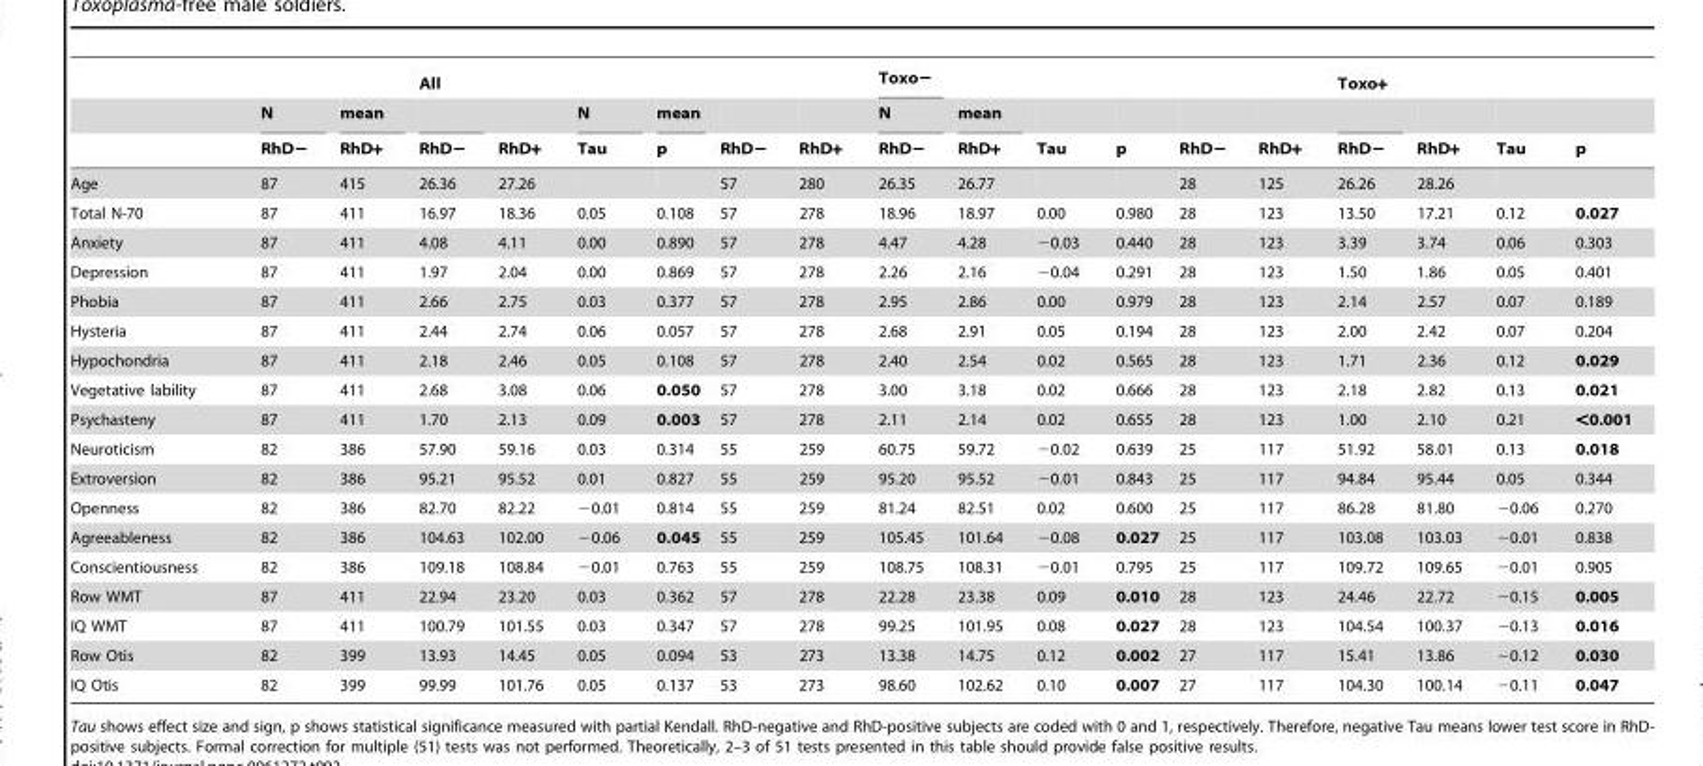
<table><thead><tr><td rowspan="3"></td><td rowspan="3">N RhD−</td><td rowspan="3">mean RhD+</td><td rowspan="3">All RhD−</td><td rowspan="3">RhD+</td><td rowspan="3">N Tau</td><td rowspan="3">mean p</td><td rowspan="3">RhD−</td><td rowspan="3">RhD+</td><td rowspan="3">Toxo− N RhD−</td><td rowspan="3">mean RhD+</td><td rowspan="3">Tau</td><td rowspan="3">p</td><td rowspan="3">RhD−</td><td rowspan="3">RhD+</td><td rowspan="3">Toxo+ RhD−</td><td rowspan="3">RhD+</td><td rowspan="3">Tau</td><td rowspan="3">p</td></tr><tr></tr><tr></tr></thead><tbody><tr><td>Age</td><td>87</td><td>415</td><td>26.36</td><td>27.26</td><td></td><td></td><td>57</td><td>280</td><td>26.35</td><td>26.77</td><td></td><td></td><td>28</td><td>125</td><td>26.26</td><td>28.26</td><td></td><td></td></tr><tr><td>Total N-70</td><td>87</td><td>411</td><td>16.97</td><td>18.36</td><td>0.05</td><td>0.108</td><td>57</td><td>278</td><td>18.96</td><td>18.97</td><td>0.00</td><td>0.980</td><td>28</td><td>123</td><td>13.50</td><td>17.21</td><td>0.12</td><td>0.027</td></tr><tr><td>Anxiety</td><td>87</td><td>411</td><td>4.08</td><td>4.11</td><td>0.00</td><td>0.890</td><td>57</td><td>278</td><td>4.47</td><td>4.28</td><td>−0.03</td><td>0.440</td><td>28</td><td>123</td><td>3.39</td><td>3.74</td><td>0.06</td><td>0.303</td></tr><tr><td>Depression</td><td>87</td><td>411</td><td>1.97</td><td>2.04</td><td>0.00</td><td>0.869</td><td>57</td><td>278</td><td>2.26</td><td>2.16</td><td>−0.04</td><td>0.291</td><td>28</td><td>123</td><td>1.50</td><td>1.86</td><td>0.05</td><td>0.401</td></tr><tr><td>Phobia</td><td>87</td><td>411</td><td>2.66</td><td>2.75</td><td>0.03</td><td>0.377</td><td>57</td><td>278</td><td>2.95</td><td>2.86</td><td>0.00</td><td>0.979</td><td>28</td><td>123</td><td>2.14</td><td>2.57</td><td>0.07</td><td>0.189</td></tr><tr><td>Hysteria</td><td>87</td><td>411</td><td>2.44</td><td>2.74</td><td>0.06</td><td>0.057</td><td>57</td><td>278</td><td>2.68</td><td>2.91</td><td>0.05</td><td>0.194</td><td>28</td><td>123</td><td>2.00</td><td>2.42</td><td>0.07</td><td>0.204</td></tr><tr><td>Hypochondria</td><td>87</td><td>411</td><td>2.18</td><td>2.46</td><td>0.05</td><td>0.108</td><td>57</td><td>278</td><td>2.40</td><td>2.54</td><td>0.02</td><td>0.565</td><td>28</td><td>123</td><td>1.71</td><td>2.36</td><td>0.12</td><td>0.029</td></tr><tr><td>Vegetative lability</td><td>87</td><td>411</td><td>2.68</td><td>3.08</td><td>0.06</td><td>0.050</td><td>57</td><td>278</td><td>3.00</td><td>3.18</td><td>0.02</td><td>0.666</td><td>28</td><td>123</td><td>2.18</td><td>2.82</td><td>0.13</td><td>0.021</td></tr><tr><td>Psychasteny</td><td>87</td><td>411</td><td>1.70</td><td>2.13</td><td>0.09</td><td>0.003</td><td>57</td><td>278</td><td>2.11</td><td>2.14</td><td>0.02</td><td>0.655</td><td>28</td><td>123</td><td>1.00</td><td>2.10</td><td>0.21</td><td>&lt;0.001</td></tr><tr><td>Neuroticism</td><td>82</td><td>386</td><td>57.90</td><td>59.16</td><td>0.03</td><td>0.314</td><td>55</td><td>259</td><td>60.75</td><td>59.72</td><td>−0.02</td><td>0.639</td><td>25</td><td>117</td><td>51.92</td><td>58.01</td><td>0.13</td><td>0.018</td></tr><tr><td>Extroversion</td><td>82</td><td>386</td><td>95.21</td><td>95.52</td><td>0.01</td><td>0.827</td><td>55</td><td>259</td><td>95.20</td><td>95.52</td><td>−0.01</td><td>0.843</td><td>25</td><td>117</td><td>94.84</td><td>95.44</td><td>0.05</td><td>0.344</td></tr><tr><td>Openness</td><td>82</td><td>386</td><td>82.70</td><td>82.22</td><td>−0.01</td><td>0.814</td><td>55</td><td>259</td><td>81.24</td><td>82.51</td><td>0.02</td><td>0.600</td><td>25</td><td>117</td><td>86.28</td><td>81.80</td><td>−0.06</td><td>0.270</td></tr><tr><td>Agreeableness</td><td>82</td><td>386</td><td>104.63</td><td>102.00</td><td>−0.06</td><td>0.045</td><td>55</td><td>259</td><td>105.45</td><td>101.64</td><td>−0.08</td><td>0.027</td><td>25</td><td>117</td><td>103.08</td><td>103.03</td><td>−0.01</td><td>0.838</td></tr><tr><td>Conscientiousness</td><td>82</td><td>386</td><td>109.18</td><td>108.84</td><td>−0.01</td><td>0.763</td><td>55</td><td>259</td><td>108.75</td><td>108.31</td><td>−0.01</td><td>0.795</td><td>25</td><td>117</td><td>109.72</td><td>109.65</td><td>−0.01</td><td>0.905</td></tr><tr><td>Row WMT</td><td>87</td><td>411</td><td>22.94</td><td>23.20</td><td>0.03</td><td>0.362</td><td>57</td><td>278</td><td>22.28</td><td>23.38</td><td>0.09</td><td>0.010</td><td>28</td><td>123</td><td>24.46</td><td>22.72</td><td>−0.15</td><td>0.005</td></tr><tr><td>IQ WMT</td><td>87</td><td>411</td><td>100.79</td><td>101.55</td><td>0.03</td><td>0.347</td><td>57</td><td>278</td><td>99.25</td><td>101.95</td><td>0.08</td><td>0.027</td><td>28</td><td>123</td><td>104.54</td><td>100.37</td><td>−0.13</td><td>0.016</td></tr><tr><td>Row Otis</td><td>82</td><td>399</td><td>13.93</td><td>14.45</td><td>0.05</td><td>0.094</td><td>53</td><td>273</td><td>13.38</td><td>14.75</td><td>0.12</td><td>0.002</td><td>27</td><td>117</td><td>15.41</td><td>13.86</td><td>−0.12</td><td>0.030</td></tr><tr><td>IQ Otis</td><td>82</td><td>399</td><td>99.99</td><td>101.76</td><td>0.05</td><td>0.137</td><td>53</td><td>273</td><td>98.60</td><td>102.62</td><td>0.10</td><td>0.007</td><td>27</td><td>117</td><td>104.30</td><td>100.14</td><td>−0.11</td><td>0.047</td></tr></tbody></table>